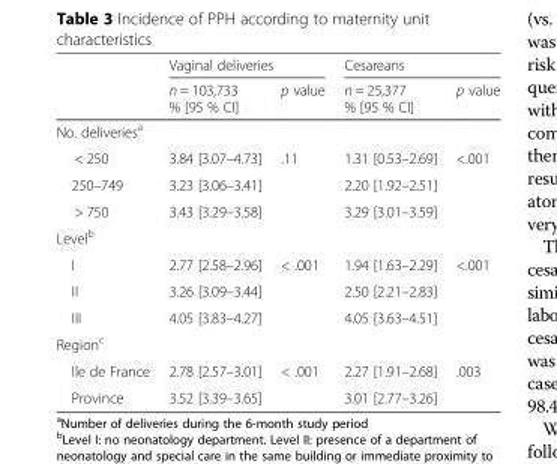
<table><thead><tr><td rowspan="2"></td><td colspan="2">Vaginal deliveries</td><td colspan="2">Cesareans</td></tr><tr><td>n = 103,733 % [95 % CI]</td><td>p value</td><td>n = 25,377 % [95 % CI]</td><td>p value</td></tr></thead><tbody><tr><td colspan="5">No. deliveries<sup>a</sup></td></tr><tr><td>&lt; 250</td><td>3.84 [3.07–4.73]</td><td rowspan="3">.11</td><td>1.31 [0.53–2.69]</td><td rowspan="3">&lt;.001</td></tr><tr><td>250–749</td><td>3.23 [3.06–3.41]</td><td>2.20 [1.92–2.51]</td></tr><tr><td>&gt; 750</td><td>3.43 [3.29–3.58]</td><td>3.29 [3.01–3.59]</td></tr><tr><td colspan="5">Level<sup>b</sup></td></tr><tr><td>I</td><td>2.77 [2.58–2.96]</td><td rowspan="3">&lt; .001</td><td>1.94 [1.63–2.29]</td><td rowspan="3">&lt;.001</td></tr><tr><td>II</td><td>3.26 [3.09–3.44]</td><td>2.50 [2.21–2.83]</td></tr><tr><td>III</td><td>4.05 [3.83–4.27]</td><td>4.05 [3.63–4.51]</td></tr><tr><td colspan="5">Region<sup>c</sup></td></tr><tr><td>Ile de France</td><td>2.78 [2.57–3.01]</td><td rowspan="2">&lt; .001</td><td>2.27 [1.91–2.68]</td><td rowspan="2">.003</td></tr><tr><td>Province</td><td>3.52 [3.39–3.65]</td><td>3.01 [2.77–3.26]</td></tr></tbody></table>